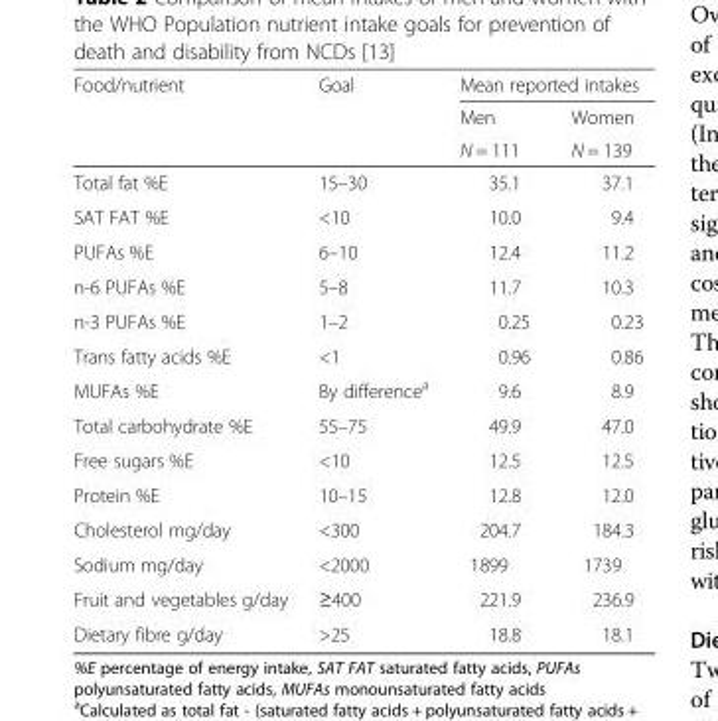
<table><thead><tr><td rowspan="3">Food/nutrient</td><td rowspan="3">Goal</td><td colspan="2">Mean reported intakes</td></tr><tr><td rowspan="2">Men N = 111</td><td rowspan="2">Women N = 139</td></tr><tr></tr></thead><tbody><tr><td>Total fat %E</td><td>15–30</td><td>35.1</td><td>37.1</td></tr><tr><td>SAT FAT %E</td><td>&lt;10</td><td>10.0</td><td>9.4</td></tr><tr><td>PUFAs %E</td><td>6–10</td><td>12.4</td><td>11.2</td></tr><tr><td>n-6 PUFAs %E</td><td>5–8</td><td>11.7</td><td>10.3</td></tr><tr><td>n-3 PUFAs %E</td><td>1–2</td><td>0.25</td><td>0.23</td></tr><tr><td>Trans fatty acids %E</td><td>&lt;1</td><td>0.96</td><td>0.86</td></tr><tr><td>MUFAs %E</td><td>By difference<sup>a</sup></td><td>9.6</td><td>8.9</td></tr><tr><td>Total carbohydrate %E</td><td>55–75</td><td>49.9</td><td>47.0</td></tr><tr><td>Free sugars %E</td><td>&lt;10</td><td>12.5</td><td>12.5</td></tr><tr><td>Protein %E</td><td>10–15</td><td>12.8</td><td>12.0</td></tr><tr><td>Cholesterol mg/day</td><td>&lt;300</td><td>204.7</td><td>184.3</td></tr><tr><td>Sodium mg/day</td><td>&lt;2000</td><td>1899</td><td>1739</td></tr><tr><td>Fruit and vegetables g/day</td><td>≥400</td><td>221.9</td><td>236.9</td></tr><tr><td>Dietary fibre g/day</td><td>&gt;25</td><td>18.8</td><td>18.1</td></tr></tbody></table>